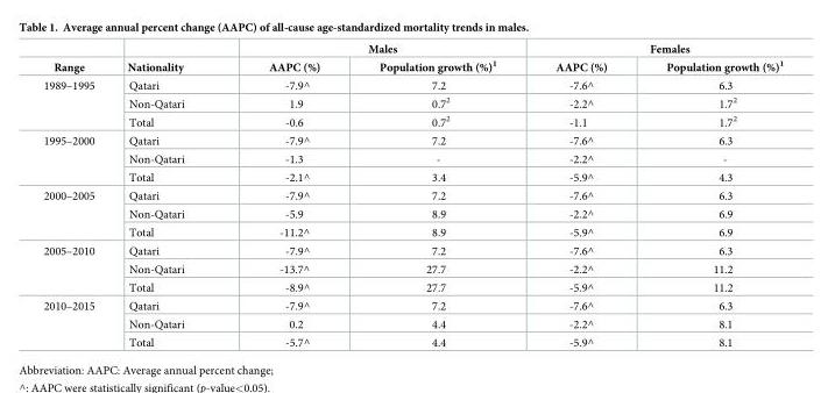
<table><thead><tr><td rowspan="2">Range</td><td rowspan="2">Nationality</td><td colspan="2">Males</td><td colspan="2">Females</td></tr><tr><td>AAPC (%)</td><td>Population growth (%)<sup>1</sup></td><td>AAPC (%)</td><td>Population growth (%)<sup>1</sup></td></tr></thead><tbody><tr><td rowspan="3">1989–1995</td><td>Qatari</td><td>-7.9^</td><td>7.2</td><td>-7.6^</td><td>6.3</td></tr><tr><td>Non-Qatari</td><td>1.9</td><td>0.7<sup>2</sup></td><td>-2.2^</td><td>1.7<sup>2</sup></td></tr><tr><td>Total</td><td>-0.6</td><td>0.7<sup>2</sup></td><td>-1.1</td><td>1.7<sup>2</sup></td></tr><tr><td rowspan="3">1995–2000</td><td>Qatari</td><td>-7.9^</td><td>7.2</td><td>-7.6^</td><td>6.3</td></tr><tr><td>Non-Qatari</td><td>-1.3</td><td>-</td><td>-2.2^</td><td>-</td></tr><tr><td>Total</td><td>-2.1^</td><td>3.4</td><td>-5.9^</td><td>4.3</td></tr><tr><td rowspan="3">2000–2005</td><td>Qatari</td><td>-7.9^</td><td>7.2</td><td>-7.6^</td><td>6.3</td></tr><tr><td>Non-Qatari</td><td>-5.9</td><td>8.9</td><td>-2.2^</td><td>6.9</td></tr><tr><td>Total</td><td>-11.2^</td><td>8.9</td><td>-5.9^</td><td>6.9</td></tr><tr><td rowspan="3">2005–2010</td><td>Qatari</td><td>-7.9^</td><td>7.2</td><td>-7.6^</td><td>6.3</td></tr><tr><td>Non-Qatari</td><td>-13.7^</td><td>27.7</td><td>-2.2^</td><td>11.2</td></tr><tr><td>Total</td><td>-8.9^</td><td>27.7</td><td>-5.9^</td><td>11.2</td></tr><tr><td rowspan="3">2010–2015</td><td>Qatari</td><td>-7.9^</td><td>7.2</td><td>-7.6^</td><td>6.3</td></tr><tr><td>Non-Qatari</td><td>0.2</td><td>4.4</td><td>-2.2^</td><td>8.1</td></tr><tr><td>Total</td><td>-5.7^</td><td>4.4</td><td>-5.9^</td><td>8.1</td></tr></tbody></table>